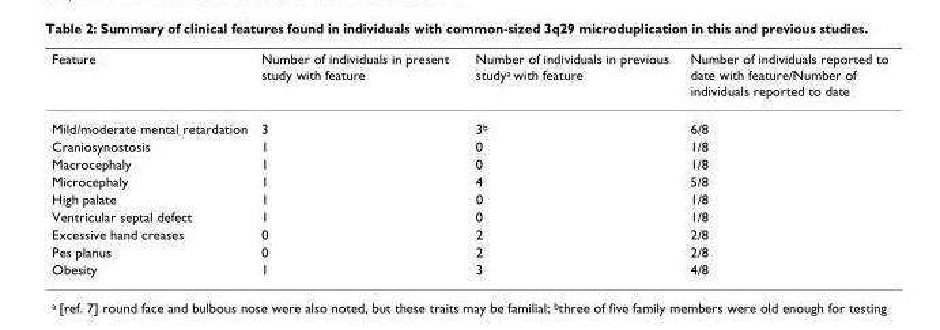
<table><thead><tr><td>Feature</td><td>Number of individuals in present study with feature</td><td>Number of individuals in previous study<sup>a</sup> with feature</td><td>Number of individuals reported to date with feature/Number of individuals reported to date</td></tr></thead><tbody><tr><td>Mild/moderate mental retardation</td><td>3</td><td>3<sup>b</sup></td><td>6/8</td></tr><tr><td>Craniosynostosis</td><td>1</td><td>0</td><td>1/8</td></tr><tr><td>Macrocephaly</td><td>1</td><td>0</td><td>1/8</td></tr><tr><td>Microcephaly</td><td>1</td><td>4</td><td>5/8</td></tr><tr><td>High palate</td><td>1</td><td>0</td><td>1/8</td></tr><tr><td>Ventricular septal defect</td><td>1</td><td>0</td><td>1/8</td></tr><tr><td>Excessive hand creases</td><td>0</td><td>2</td><td>2/8</td></tr><tr><td>Pes planus</td><td>0</td><td>2</td><td>2/8</td></tr><tr><td>Obesity</td><td>1</td><td>3</td><td>4/8</td></tr></tbody></table>